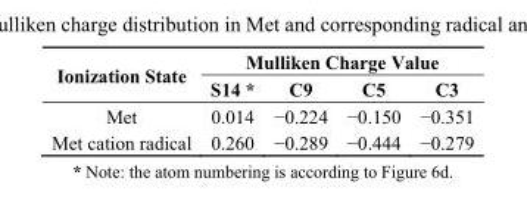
<table><thead><tr><td rowspan="2">Ionization State</td><td colspan="4">Mulliken Charge Value</td></tr><tr><td>S14 *</td><td>C9</td><td>C5</td><td>С3</td></tr></thead><tbody><tr><td>Met</td><td>0.014</td><td>−0.224</td><td>−0.150</td><td>−0.351</td></tr><tr><td>Met cation radical</td><td>0.260</td><td>−0.289</td><td>−0.444</td><td>−0.279</td></tr></tbody></table>